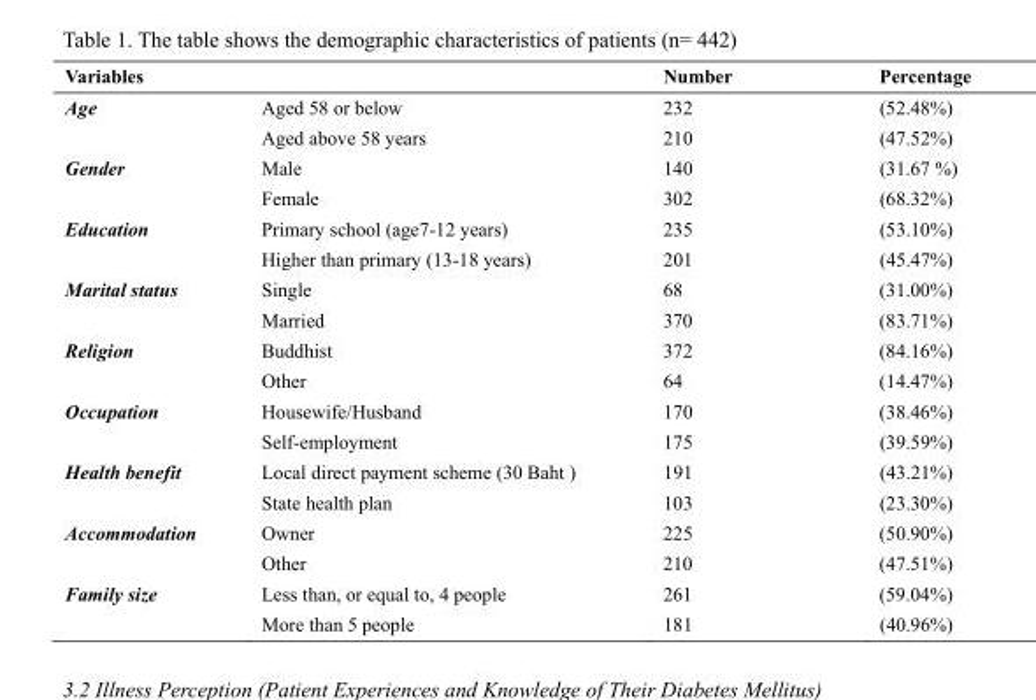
<table><thead><tr><td>Variables</td><td></td><td>Number</td><td>Percentage</td></tr></thead><tbody><tr><td rowspan="2">Age</td><td>Aged 58 or below</td><td>232</td><td>(52.48%)</td></tr><tr><td>Aged above 58 years</td><td>210</td><td>(47.52%)</td></tr><tr><td rowspan="2">Gender</td><td>Male</td><td>140</td><td>(31.67 %)</td></tr><tr><td>Female</td><td>302</td><td>(68.32%)</td></tr><tr><td rowspan="2">Education</td><td>Primary school (age7-12 years)</td><td>235</td><td>(53.10%)</td></tr><tr><td>Higher than primary (13-18 years)</td><td>201</td><td>(45.47%)</td></tr><tr><td rowspan="2">Marital status</td><td>Single</td><td>68</td><td>(31.00%)</td></tr><tr><td>Married</td><td>370</td><td>(83.71%)</td></tr><tr><td rowspan="2">Religion</td><td>Buddhist</td><td>372</td><td>(84.16%)</td></tr><tr><td>Other</td><td>64</td><td>(14.47%)</td></tr><tr><td rowspan="2">Occupation</td><td>Housewife/Husband</td><td>170</td><td>(38.46%)</td></tr><tr><td>Self-employment</td><td>175</td><td>(39.59%)</td></tr><tr><td rowspan="2">Health benefit</td><td>Local direct payment scheme (30 Baht )</td><td>191</td><td>(43.21%)</td></tr><tr><td>State health plan</td><td>103</td><td>(23.30%)</td></tr><tr><td rowspan="2">Accommodation</td><td>Owner</td><td>225</td><td>(50.90%)</td></tr><tr><td>Other</td><td>210</td><td>(47.51%)</td></tr><tr><td rowspan="2">Family size</td><td>Less than, or equal to, 4 people</td><td>261</td><td>(59.04%)</td></tr><tr><td>More than 5 people</td><td>181</td><td>(40.96%)</td></tr></tbody></table>